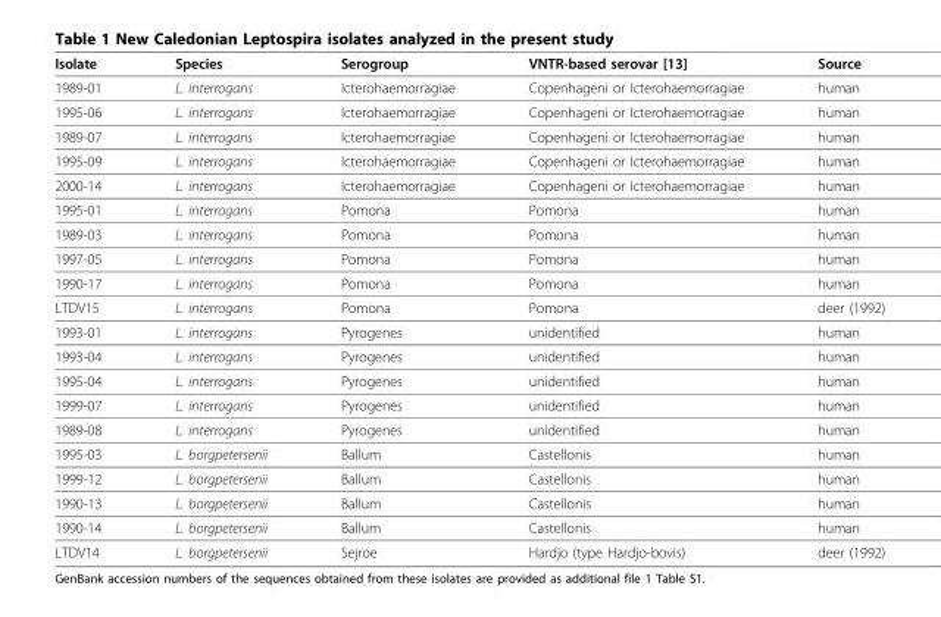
<table><thead><tr><td>Isolate</td><td>Species</td><td>Serogroup</td><td>VNTR-based serovar [13]</td><td>Source</td></tr></thead><tbody><tr><td>1989-01</td><td>L. interrogans</td><td>Icterohaemorragiae</td><td>Copenhageni or Icterohaemorragiae</td><td>human</td></tr><tr><td>1995-06</td><td>L. interrogans</td><td>Icterohaemorragiae</td><td>Copenhageni or Icterohaemorragiae</td><td>human</td></tr><tr><td>1989-07</td><td>L. interrogans</td><td>Icterohaemorragiae</td><td>Copenhageni or Icterohaemorragiae</td><td>human</td></tr><tr><td>1995-09</td><td>L. interrogans</td><td>Icterohaemorragiae</td><td>Copenhageni or Icterohaemorragiae</td><td>human</td></tr><tr><td>2000-14</td><td>L. interrogans</td><td>Icterohaemorragiae</td><td>Copenhageni or Icterohaemorragiae</td><td>human</td></tr><tr><td>1995-01</td><td>L. interrogans</td><td>Pomona</td><td>Pomona</td><td>human</td></tr><tr><td>1989-03</td><td>L. interrogans</td><td>Pomona</td><td>Pomona</td><td>human</td></tr><tr><td>1997-05</td><td>L. interrogans</td><td>Pomona</td><td>Pomona</td><td>human</td></tr><tr><td>1990-17</td><td>L. interrogans</td><td>Pomona</td><td>Pomona</td><td>human</td></tr><tr><td>LTDV15</td><td>L. interrogans</td><td>Pomona</td><td>Pomona</td><td>deer (1992)</td></tr><tr><td>1993-01</td><td>L. interrogans</td><td>Pyrogenes</td><td>unidentified</td><td>human</td></tr><tr><td>1993-04</td><td>L. interrogans</td><td>Pyrogenes</td><td>unidentified</td><td>human</td></tr><tr><td>1995-04</td><td>L. interrogans</td><td>Pyrogenes</td><td>unidentified</td><td>human</td></tr><tr><td>1999-07</td><td>L. interrogans</td><td>Pyrogenes</td><td>unidentified</td><td>human</td></tr><tr><td>1989-08</td><td>L. interrogans</td><td>Pyrogenes</td><td>unidentified</td><td>human</td></tr><tr><td>1995-03</td><td>L. borgpetersenii</td><td>Ballum</td><td>Castellonis</td><td>human</td></tr><tr><td>1999-12</td><td>L. borgpetersenii</td><td>Ballum</td><td>Castellonis</td><td>human</td></tr><tr><td>1990-13</td><td>L. borgpetersenii</td><td>Ballum</td><td>Castellonis</td><td>human</td></tr><tr><td>1990-14</td><td>L. borgpetersenii</td><td>Ballum</td><td>Castellonis</td><td>human</td></tr><tr><td>LTDV14</td><td>L. borgpetersenii</td><td>Sejroe</td><td>Hardjo (type Hardjo-bovis)</td><td>deer (1992)</td></tr></tbody></table>